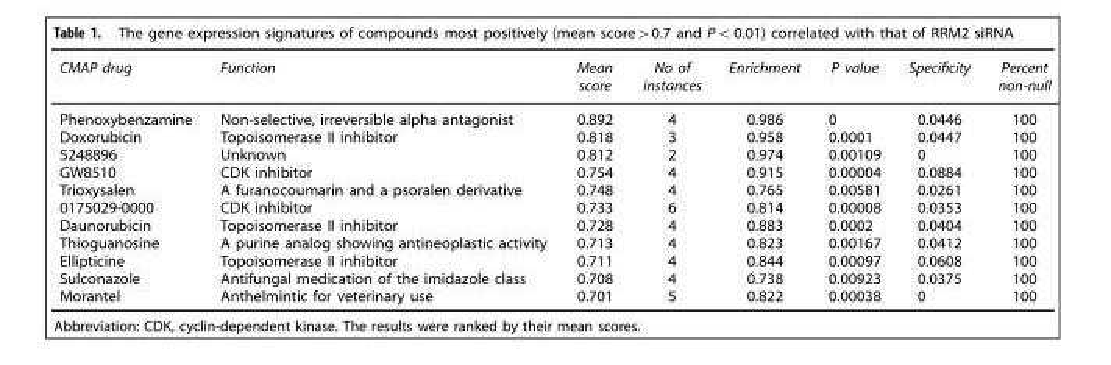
<table><thead><tr><td>CMAP drug</td><td>Function</td><td>Mean score</td><td>No of instances</td><td>Enrichment</td><td>P value</td><td>Specificity</td><td>Percent non-null</td></tr></thead><tbody><tr><td>Phenoxybenzamine</td><td>Non-selective, irreversible alpha antagonist</td><td>0.892</td><td>4</td><td>0.986</td><td>0</td><td>0.0446</td><td>100</td></tr><tr><td>Doxorubicin</td><td>Topoisomerase II inhibitor</td><td>0.818</td><td>3</td><td>0.958</td><td>0.0001</td><td>0.0447</td><td>100</td></tr><tr><td>5248896</td><td>Unknown</td><td>0.812</td><td>2</td><td>0.974</td><td>0.00109</td><td>0</td><td>100</td></tr><tr><td>GW8510</td><td>CDK inhibitor</td><td>0.754</td><td>4</td><td>0.915</td><td>0.00004</td><td>0.0884</td><td>100</td></tr><tr><td>Trioxysalen</td><td>A furanocoumarin and a psoralen derivative</td><td>0.748</td><td>4</td><td>0.765</td><td>0.00581</td><td>0.0261</td><td>100</td></tr><tr><td>0175029-0000</td><td>CDK inhibitor</td><td>0.733</td><td>6</td><td>0.814</td><td>0.00008</td><td>0.0353</td><td>100</td></tr><tr><td>Daunorubicin</td><td>Topoisomerase II inhibitor</td><td>0.728</td><td>4</td><td>0.883</td><td>0.0002</td><td>0.0404</td><td>100</td></tr><tr><td>Thioguanosine</td><td>A purine analog showing antineoplastic activity</td><td>0.713</td><td>4</td><td>0.823</td><td>0.00167</td><td>0.0412</td><td>100</td></tr><tr><td>Ellipticine</td><td>Topoisomerase II inhibitor</td><td>0.711</td><td>4</td><td>0.844</td><td>0.00097</td><td>0.0608</td><td>100</td></tr><tr><td>Sulconazole</td><td>Antifungal medication of the imidazole class</td><td>0.708</td><td>4</td><td>0.738</td><td>0.00923</td><td>0.0375</td><td>100</td></tr><tr><td>Morantel</td><td>Anthelmintic for veterinary use</td><td>0.701</td><td>5</td><td>0.822</td><td>0.00038</td><td>0</td><td>100</td></tr></tbody></table>